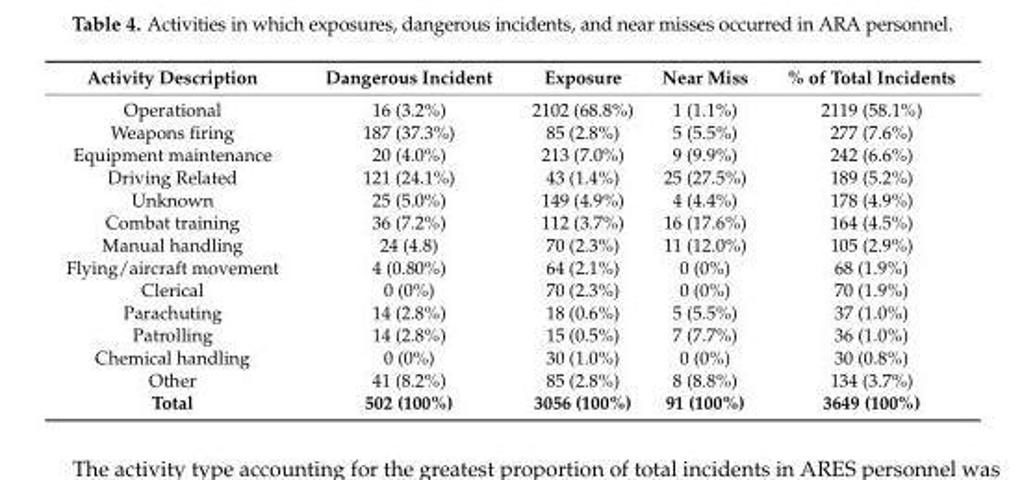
<table><thead><tr><td>Activity Description</td><td>Dangerous Incident</td><td>Exposure</td><td>Near Miss</td><td>% of Total Incidents</td></tr></thead><tbody><tr><td>Operational</td><td>16 (3.2%)</td><td>2102 (68.8%)</td><td>1 (1.1%)</td><td>2119 (58.1%)</td></tr><tr><td>Weapons firing</td><td>187 (37.3%)</td><td>85 (2.8%)</td><td>5 (5.5%)</td><td>277 (7.6%)</td></tr><tr><td>Equipment maintenance</td><td>20 (4.0%)</td><td>213 (7.0%)</td><td>9 (9.9%)</td><td>242 (6.6%)</td></tr><tr><td>Driving Related</td><td>121 (24.1%)</td><td>43 (1.4%)</td><td>25 (27.5%)</td><td>189 (5.2%)</td></tr><tr><td>Unknown</td><td>25 (5.0%)</td><td>149 (4.9%)</td><td>4 (4.4%)</td><td>178 (4.9%)</td></tr><tr><td>Combat training</td><td>36 (7.2%)</td><td>112 (3.7%)</td><td>16 (17.6%)</td><td>164 (4.5%)</td></tr><tr><td>Manual handling</td><td>24 (4.8)</td><td>70 (2.3%)</td><td>11 (12.0%)</td><td>105 (2.9%)</td></tr><tr><td>Flying/aircraft movement</td><td>4 (0.80%)</td><td>64 (2.1%)</td><td>0 (0%)</td><td>68 (1.9%)</td></tr><tr><td>Clerical</td><td>0 (0%)</td><td>70 (2.3%)</td><td>0 (0%)</td><td>70 (1.9%)</td></tr><tr><td>Parachuting</td><td>14 (2.8%)</td><td>18 (0.6%)</td><td>5 (5.5%)</td><td>37 (1.0%)</td></tr><tr><td>Patrolling</td><td>14 (2.8%)</td><td>15 (0.5%)</td><td>7 (7.7%)</td><td>36 (1.0%)</td></tr><tr><td>Chemical handling</td><td>0 (0%)</td><td>30 (1.0%)</td><td>0 (0%)</td><td>30 (0.8%)</td></tr><tr><td>Other</td><td>41 (8.2%)</td><td>85 (2.8%)</td><td>8 (8.8%)</td><td>134 (3.7%)</td></tr><tr><td>Total</td><td>502 (100%)</td><td>3056 (100%)</td><td>91 (100%)</td><td>3649 (100%)</td></tr></tbody></table>